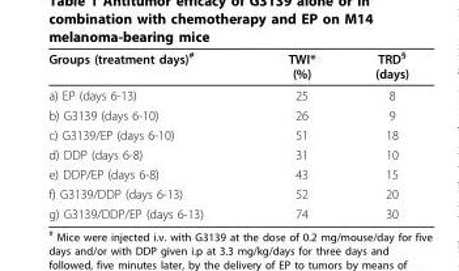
<table><thead><tr><td>Groups (treatment days)<sup>#</sup></td><td>TWI* (%)</td><td>TRD<sup>§</sup> (days)</td></tr></thead><tbody><tr><td>a) EP (days 6-13)</td><td>25</td><td>8</td></tr><tr><td>b) G3139 (days 6-10)</td><td>26</td><td>9</td></tr><tr><td>c) G3139/EP (days 6-10)</td><td>51</td><td>18</td></tr><tr><td>d) DDP (days 6-8)</td><td>31</td><td>10</td></tr><tr><td>e) DDP/EP (days 6-8)</td><td>43</td><td>15</td></tr><tr><td>f) G3139/DDP (days 6-13)</td><td>52</td><td>20</td></tr><tr><td>g) G3139/DDP/EP (days 6-13)</td><td>74</td><td>30</td></tr></tbody></table>